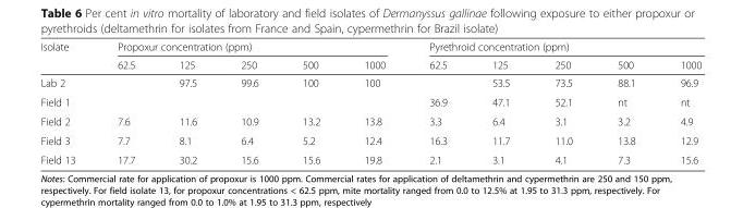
<table><thead><tr><td rowspan="2">Isolate</td><td colspan="5">Propoxur concentration (ppm)</td><td colspan="5">Pyrethroid concentration (ppm)</td></tr><tr><td>62.5</td><td>125</td><td>250</td><td>500</td><td>1000</td><td>62.5</td><td>125</td><td>250</td><td>500</td><td>1000</td></tr></thead><tbody><tr><td>Lab 2</td><td></td><td>97.5</td><td>99.6</td><td>100</td><td>100</td><td></td><td>53.5</td><td>73.5</td><td>88.1</td><td>96.9</td></tr><tr><td>Field 1</td><td></td><td></td><td></td><td></td><td></td><td>36.9</td><td>47.1</td><td>52.1</td><td>nt</td><td>nt</td></tr><tr><td>Field 2</td><td>7.6</td><td>11.6</td><td>10.9</td><td>13.2</td><td>13.8</td><td>3.3</td><td>6.4</td><td>3.1</td><td>3.2</td><td>4.9</td></tr><tr><td>Field 3</td><td>7.7</td><td>8.1</td><td>6.4</td><td>5.2</td><td>12.4</td><td>16.3</td><td>11.7</td><td>11.0</td><td>13.8</td><td>12.9</td></tr><tr><td>Field 13</td><td>17.7</td><td>30.2</td><td>15.6</td><td>15.6</td><td>19.8</td><td>2.1</td><td>3.1</td><td>4.1</td><td>7.3</td><td>15.6</td></tr></tbody></table>